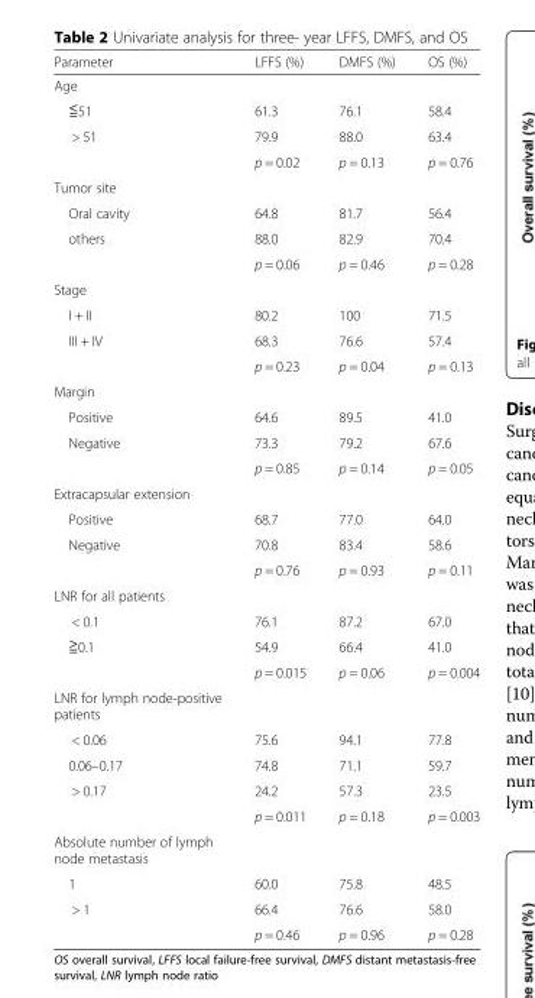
<table><thead><tr><td>Parameter</td><td>LFFS (%)</td><td>DMFS (%)</td><td>OS (%)</td></tr></thead><tbody><tr><td colspan="4">Age</td></tr><tr><td>≦51</td><td>61.3</td><td>76.1</td><td>58.4</td></tr><tr><td rowspan="2">&gt; 51</td><td>79.9</td><td>88.0</td><td>63.4</td></tr><tr><td>p = 0.02</td><td>p = 0.13</td><td>p = 0.76</td></tr><tr><td colspan="4">Tumor site</td></tr><tr><td>Oral cavity</td><td>64.8</td><td>81.7</td><td>56.4</td></tr><tr><td rowspan="2">others</td><td>88.0</td><td>82.9</td><td>70.4</td></tr><tr><td>p = 0.06</td><td>p = 0.46</td><td>p = 0.28</td></tr><tr><td colspan="4">Stage</td></tr><tr><td>I + II</td><td>80.2</td><td>100</td><td>71.5</td></tr><tr><td rowspan="2">III + IV</td><td>68.3</td><td>76.6</td><td>57.4</td></tr><tr><td>p = 0.23</td><td>p = 0.04</td><td>p = 0.13</td></tr><tr><td colspan="4">Margin</td></tr><tr><td>Positive</td><td>64.6</td><td>89.5</td><td>41.0</td></tr><tr><td rowspan="2">Negative</td><td>73.3</td><td>79.2</td><td>67.6</td></tr><tr><td>p = 0.85</td><td>p = 0.14</td><td>p = 0.05</td></tr><tr><td colspan="4">Extracapsular extension</td></tr><tr><td>Positive</td><td>68.7</td><td>77.0</td><td>64.0</td></tr><tr><td rowspan="2">Negative</td><td>70.8</td><td>83.4</td><td>58.6</td></tr><tr><td>p = 0.76</td><td>p = 0.93</td><td>p = 0.11</td></tr><tr><td colspan="4">LNR for all patients</td></tr><tr><td>&lt; 0.1</td><td>76.1</td><td>87.2</td><td>67.0</td></tr><tr><td rowspan="2">≧0.1</td><td>54.9</td><td>66.4</td><td>41.0</td></tr><tr><td>p = 0.015</td><td>p = 0.06</td><td>p = 0.004</td></tr><tr><td colspan="4">LNR for lymph node-positive patients</td></tr><tr><td>&lt; 0.06</td><td>75.6</td><td>94.1</td><td>77.8</td></tr><tr><td>0.06–0.17</td><td>74.8</td><td>71.1</td><td>59.7</td></tr><tr><td rowspan="2">&gt; 0.17</td><td>24.2</td><td>57.3</td><td>23.5</td></tr><tr><td>p = 0.011</td><td>p = 0.18</td><td>p = 0.003</td></tr><tr><td colspan="4">Absolute number of lymph node metastasis</td></tr><tr><td>1</td><td>60.0</td><td>75.8</td><td>48.5</td></tr><tr><td rowspan="2">&gt; 1</td><td>66.4</td><td>76.6</td><td>58.0</td></tr><tr><td>p = 0.46</td><td>p = 0.96</td><td>p = 0.28</td></tr></tbody></table>